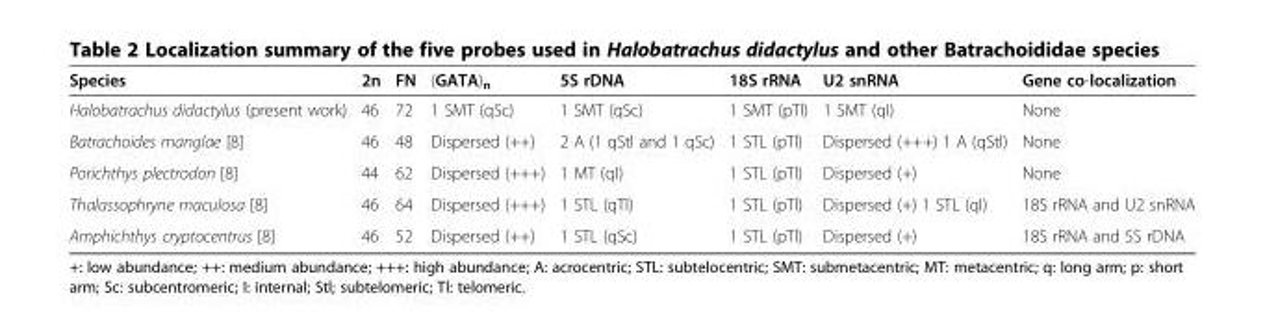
<table><thead><tr><td>Species</td><td>2n</td><td>FN</td><td>(GATA)<sub>n</sub></td><td>5S rDNA</td><td>18S rRNA</td><td>U2 snRNA</td><td>Gene co-localization</td></tr></thead><tbody><tr><td>Halobatrachus didactylus (present work)</td><td>46</td><td>72</td><td>1 SMT (qSc)</td><td>1 SMT (qSc)</td><td>1 SMT (pTl)</td><td>1 SMT (qI)</td><td>None</td></tr><tr><td>Batrachoides manglae [8]</td><td>46</td><td>48</td><td>Dispersed (++)</td><td>2 A (1 qStl and 1 qSc)</td><td>1 STL (pTl)</td><td>Dispersed (+++) 1 A (qStl)</td><td>None</td></tr><tr><td>Porichthys plectrodon [8]</td><td>44</td><td>62</td><td>Dispersed (+++)</td><td>1 MT (qI)</td><td>1 STL (pTl)</td><td>Dispersed (+)</td><td>None</td></tr><tr><td>Thalassophryne maculosa [8]</td><td>46</td><td>64</td><td>Dispersed (+++)</td><td>1 STL (qTl)</td><td>1 STL (pTl)</td><td>Dispersed (+) 1 STL (qI)</td><td>18S rRNA and U2 snRNA</td></tr><tr><td>Amphichthys cryptocentrus [8]</td><td>46</td><td>52</td><td>Dispersed (++)</td><td>1 STL (qSc)</td><td>1 STL (pTl)</td><td>Dispersed (+)</td><td>18S rRNA and 5S rDNA</td></tr></tbody></table>